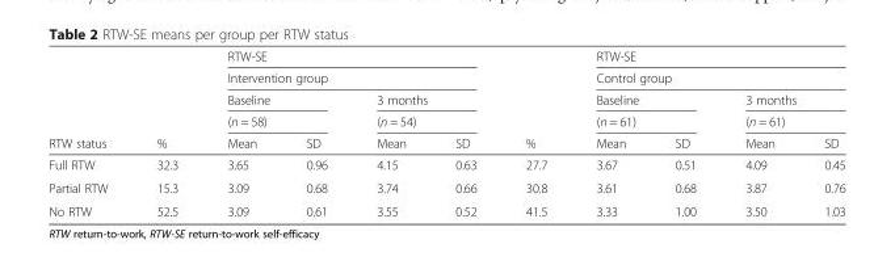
<table><thead><tr><td rowspan="5">RTW status</td><td rowspan="5">%</td><td rowspan="2" colspan="4">RTW-SE Intervention group</td><td rowspan="5">%</td><td rowspan="2" colspan="4">RTW-SE Control group</td></tr><tr></tr><tr><td rowspan="2" colspan="2">Baseline (n = 58)</td><td rowspan="2" colspan="2">3 months (n = 54)</td><td rowspan="2" colspan="2">Baseline (n = 61)</td><td rowspan="2" colspan="2">3 months (n = 61)</td></tr><tr></tr><tr><td>Mean</td><td>SD</td><td>Mean</td><td>SD</td><td>Mean</td><td>SD</td><td>Mean</td><td>SD</td></tr></thead><tbody><tr><td>Full RTW</td><td>32.3</td><td>3.65</td><td>0.96</td><td>4.15</td><td>0.63</td><td>27.7</td><td>3.67</td><td>0.51</td><td>4.09</td><td>0.45</td></tr><tr><td>Partial RTW</td><td>15.3</td><td>3.09</td><td>0.68</td><td>3.74</td><td>0.66</td><td>30.8</td><td>3.61</td><td>0.68</td><td>3.87</td><td>0.76</td></tr><tr><td>No RTW</td><td>52.5</td><td>3.09</td><td>0.61</td><td>3.55</td><td>0.52</td><td>41.5</td><td>3.33</td><td>1.00</td><td>3.50</td><td>1.03</td></tr></tbody></table>